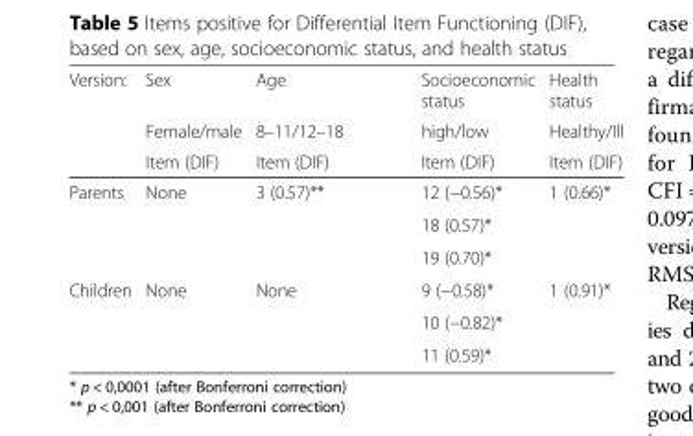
<table><thead><tr><td rowspan="3">Version:</td><td rowspan="3">Sex Female/male Item (DIF)</td><td rowspan="3">Age 8–11/12–18 Item (DIF)</td><td rowspan="3">Socioeconomic status high/low Item (DIF)</td><td rowspan="3">Health status Healthy/Ill Item (DIF)</td></tr><tr></tr><tr></tr></thead><tbody><tr><td rowspan="3">Parents</td><td rowspan="3">None</td><td rowspan="3">3 (0.57)**</td><td>12 (−0.56)*</td><td rowspan="3">1 (0.66)*</td></tr><tr><td>18 (0.57)*</td></tr><tr><td>19 (0.70)*</td></tr><tr><td rowspan="3">Children</td><td rowspan="3">None</td><td rowspan="3">None</td><td>9 (−0.58)*</td><td rowspan="3">1 (0.91)*</td></tr><tr><td>10 (−0.82)*</td></tr><tr><td>11 (0.59)*</td></tr></tbody></table>